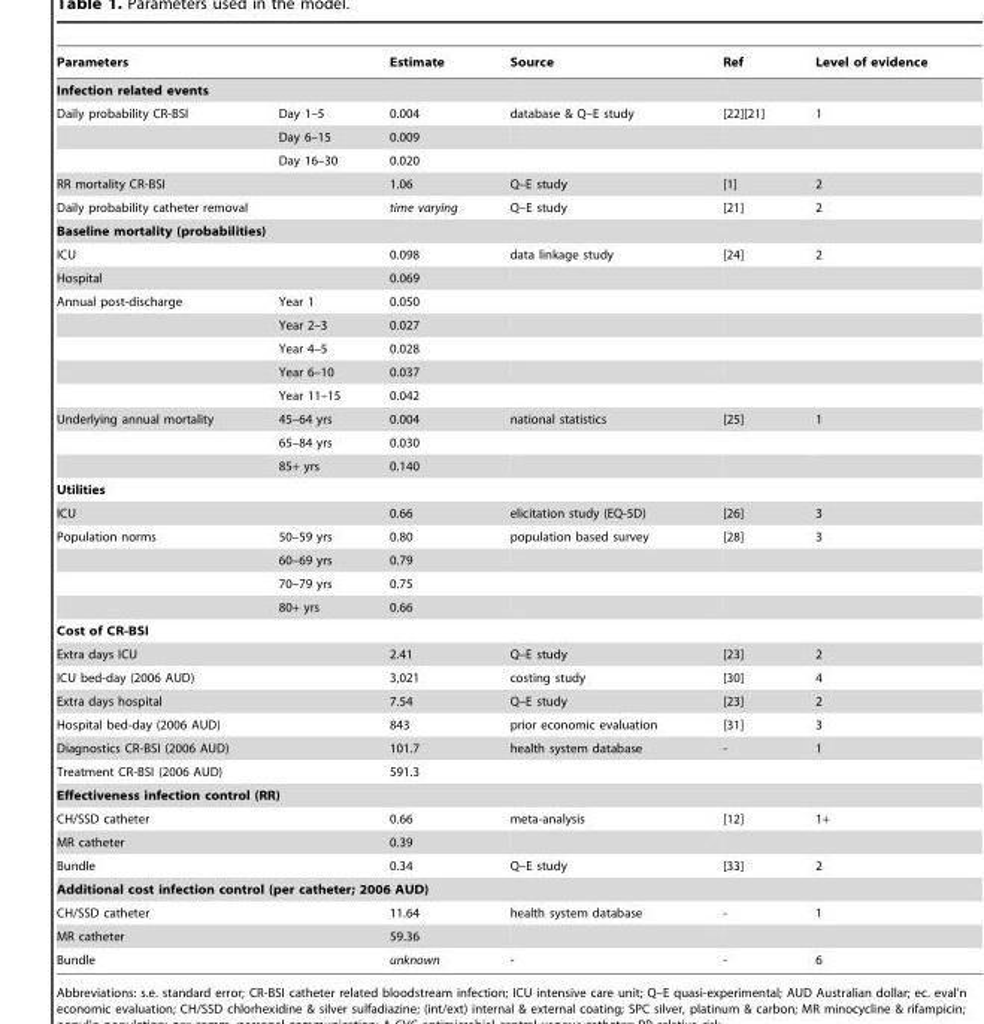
<table><thead><tr><td colspan="2">Parameters</td><td>Estimate</td><td>Source</td><td>Ref</td><td>Level of evidence</td></tr><tr><td colspan="6">Infection related events</td></tr><tr><td>Daily probability CR-BSI</td><td>Day 1–5</td><td>0.004</td><td>database &amp; Q–E study</td><td>[22][21]</td><td>1</td></tr></thead><tbody><tr><td></td><td>Day 6–15</td><td>0.009</td><td></td><td></td><td></td></tr><tr><td></td><td>Day 16–30</td><td>0.020</td><td></td><td></td><td></td></tr><tr><td colspan="2">RR mortality CR-BSI</td><td>1.06</td><td>Q–E study</td><td>[1]</td><td>2</td></tr><tr><td colspan="2">Daily probability catheter removal</td><td>time varying</td><td>Q–E study</td><td>[21]</td><td>2</td></tr><tr><td colspan="6">Baseline mortality (probabilities)</td></tr><tr><td colspan="2">ICU</td><td>0.098</td><td>data linkage study</td><td>[24]</td><td>2</td></tr><tr><td colspan="2">Hospital</td><td>0.069</td><td></td><td></td><td></td></tr><tr><td rowspan="5">Annual post-discharge</td><td>Year 1</td><td>0.050</td><td></td><td></td><td></td></tr><tr><td>Year 2–3</td><td>0.027</td><td></td><td></td><td></td></tr><tr><td>Year 4–5</td><td>0.028</td><td></td><td></td><td></td></tr><tr><td>Year 6–10</td><td>0.037</td><td></td><td></td><td></td></tr><tr><td>Year 11–15</td><td>0.042</td><td></td><td></td><td></td></tr><tr><td rowspan="3">Underlying annual mortality</td><td>45–64 yrs</td><td>0.004</td><td>national statistics</td><td>[25]</td><td>1</td></tr><tr><td>65–84 yrs</td><td>0.030</td><td></td><td></td><td></td></tr><tr><td>85+ yrs</td><td>0.140</td><td></td><td></td><td></td></tr><tr><td colspan="6">Utilities</td></tr><tr><td colspan="2">ICU</td><td>0.66</td><td>elicitation study (EQ-5D)</td><td>[26]</td><td>3</td></tr><tr><td rowspan="4">Population norms</td><td>50–59 yrs</td><td>0.80</td><td>population based survey</td><td>[28]</td><td>3</td></tr><tr><td>60–69 yrs</td><td>0.79</td><td></td><td></td><td></td></tr><tr><td>70–79 yrs</td><td>0.75</td><td></td><td></td><td></td></tr><tr><td>80+ yrs</td><td>0.66</td><td></td><td></td><td></td></tr><tr><td colspan="6">Cost of CR-BSI</td></tr><tr><td colspan="2">Extra days ICU</td><td>2.41</td><td>Q–E study</td><td>[23]</td><td>2</td></tr><tr><td colspan="2">ICU bed-day (2006 AUD)</td><td>3,021</td><td>costing study</td><td>[30]</td><td>4</td></tr><tr><td colspan="2">Extra days hospital</td><td>7.54</td><td>Q–E study</td><td>[23]</td><td>2</td></tr><tr><td colspan="2">Hospital bed-day (2006 AUD)</td><td>843</td><td>prior economic evaluation</td><td>[31]</td><td>3</td></tr><tr><td colspan="2">Diagnostics CR-BSI (2006 AUD)</td><td>101.7</td><td>health system database</td><td>-</td><td>1</td></tr><tr><td colspan="2">Treatment CR-BSI (2006 AUD)</td><td>591.3</td><td></td><td></td><td></td></tr><tr><td colspan="6">Effectiveness infection control (RR)</td></tr><tr><td colspan="2">CH/SSD catheter</td><td>0.66</td><td>meta-analysis</td><td>[12]</td><td>1+</td></tr><tr><td colspan="2">MR catheter</td><td>0.39</td><td></td><td></td><td></td></tr><tr><td colspan="2">Bundle</td><td>0.34</td><td>Q–E study</td><td>[33]</td><td>2</td></tr><tr><td colspan="6">Additional cost infection control (per catheter; 2006 AUD)</td></tr><tr><td colspan="2">CH/SSD catheter</td><td>11.64</td><td>health system database</td><td>-</td><td>1</td></tr><tr><td colspan="2">MR catheter</td><td>59.36</td><td></td><td></td><td></td></tr><tr><td colspan="2">Bundle</td><td>unknown</td><td>-</td><td>-</td><td>6</td></tr></tbody></table>